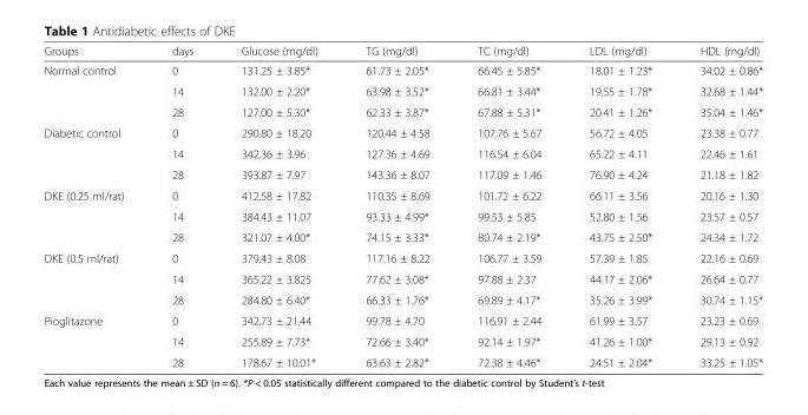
<table><thead><tr><td>Groups</td><td>days</td><td>Glucose (mg/dl)</td><td>TG (mg/dl)</td><td>TC (mg/dl)</td><td>LDL (mg/dl)</td><td>HDL (mg/dl)</td></tr></thead><tbody><tr><td rowspan="3">Normal control</td><td>0</td><td>131.25 ± 3.85*</td><td>61.73 ± 2.05*</td><td>66.45 ± 5.85*</td><td>18.01 ± 1.23*</td><td>34.02 ± 0.86*</td></tr><tr><td>14</td><td>132.00 ± 2.20*</td><td>63.98 ± 3.52*</td><td>66.81 ± 3.44*</td><td>19.55 ± 1.78*</td><td>32.68 ± 1.44*</td></tr><tr><td>28</td><td>127.00 ± 5.30*</td><td>62.33 ± 3.87*</td><td>67.88 ± 5.31*</td><td>20.41 ± 1.26*</td><td>35.04 ± 1.46*</td></tr><tr><td rowspan="3">Diabetic control</td><td>0</td><td>290.80 ± 18.20</td><td>120.44 ± 4.58</td><td>107.76 ± 5.67</td><td>56.72 ± 4.05</td><td>23.38 ± 0.77</td></tr><tr><td>14</td><td>342.36 ± 3.96</td><td>127.36 ± 4.69</td><td>116.54 ± 6.04</td><td>65.22 ± 4.11</td><td>22.46 ± 1.61</td></tr><tr><td>28</td><td>393.87 ± 7.97</td><td>143.36 ± 8.07</td><td>117.09 ± 1.46</td><td>76.90 ± 4.24</td><td>21.18 ± 1.82</td></tr><tr><td rowspan="3">DKE (0.25 ml/rat)</td><td>0</td><td>412.58 ± 17.82</td><td>110.35 ± 8.69</td><td>101.72 ± 6.22</td><td>66.11 ± 3.56</td><td>20.16 ± 1.30</td></tr><tr><td>14</td><td>384.43 ± 11.07</td><td>93.33 ± 4.99*</td><td>99.53 ± 5.85</td><td>52.80 ± 1.56</td><td>23.57 ± 0.57</td></tr><tr><td>28</td><td>321.07 ± 4.00*</td><td>74.15 ± 3.33*</td><td>80.74 ± 2.19*</td><td>43.75 ± 2.50*</td><td>24.34 ± 1.72</td></tr><tr><td rowspan="3">DKE (0.5 ml/rat)</td><td>0</td><td>379.43 ± 8.08</td><td>117.16 ± 8.22</td><td>106.77 ± 3.59</td><td>57.39 ± 1.85</td><td>22.16 ± 0.69</td></tr><tr><td>14</td><td>365.22 ± 3.825</td><td>77.62 ± 3.08*</td><td>97.88 ± 2.37</td><td>44.17 ± 2.06*</td><td>26.64 ± 0.77</td></tr><tr><td>28</td><td>284.80 ± 6.40*</td><td>66.33 ± 1.76*</td><td>69.89 ± 4.17*</td><td>35.26 ± 3.99*</td><td>30.74 ± 1.15*</td></tr><tr><td rowspan="3">Pioglitazone</td><td>0</td><td>342.73 ± 21.44</td><td>99.78 ± 4.70</td><td>116.91 ± 2.44</td><td>61.99 ± 3.57</td><td>23.23 ± 0.69</td></tr><tr><td>14</td><td>255.89 ± 7.73*</td><td>72.66 ± 3.40*</td><td>92.14 ± 1.97*</td><td>41.26 ± 1.00*</td><td>29.13 ± 0.92</td></tr><tr><td>28</td><td>178.67 ± 10.01*</td><td>63.63 ± 2.82*</td><td>72.38 ± 4.46*</td><td>24.51 ± 2.04*</td><td>33.25 ± 1.05*</td></tr></tbody></table>